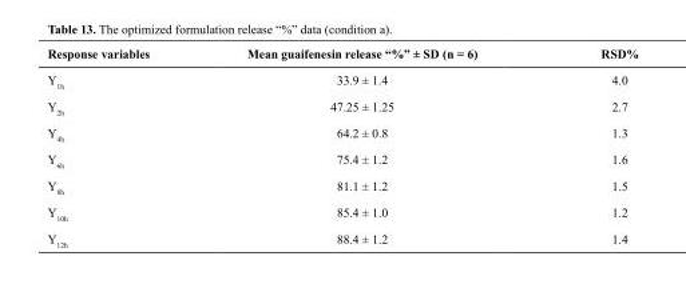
<table><thead><tr><td>Response variables</td><td>Mean guaifenesin release “%” ± SD (n = 6)</td><td>RSD%</td></tr></thead><tbody><tr><td>Y<sub>1h</sub></td><td>33.9 ± 1.4</td><td>4.0</td></tr><tr><td>Y<sub>2h</sub></td><td>47.25 ± 1.25</td><td>2.7</td></tr><tr><td>Y<sub>4h</sub></td><td>64.2 ± 0.8</td><td>1.3</td></tr><tr><td>Y<sub>6h</sub></td><td>75.4 ± 1.2</td><td>1.6</td></tr><tr><td>Y<sub>8h</sub></td><td>81.1 ± 1.2</td><td>1.5</td></tr><tr><td>Y<sub>10h</sub></td><td>85.4 ± 1.0</td><td>1.2</td></tr><tr><td>Y<sub>12h</sub></td><td>88.4 ± 1.2</td><td>1.4</td></tr></tbody></table>